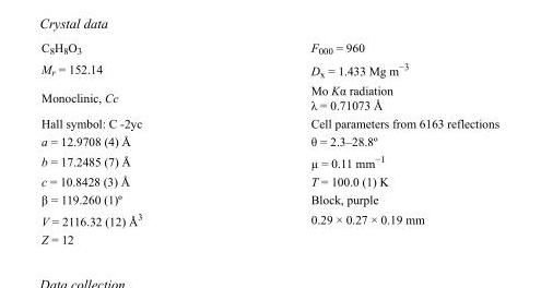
<table><tbody><tr><td>C<sub>8</sub>H<sub>8</sub>O<sub>3</sub></td><td>F<sub>000</sub> = 960</td></tr><tr><td>M<sub>r</sub> = 152.14</td><td>D<sub>x</sub> = 1.433 Mg m<sup>−3</sup></td></tr><tr><td>Monoclinic, Cc</td><td>Mo Kα radiation λ = 0.71073 Å</td></tr><tr><td>Hall symbol: C -2yc</td><td>Cell parameters from 6163 reflections</td></tr><tr><td>a = 12.9708 (4) Å</td><td>θ = 2.3–28.8º</td></tr><tr><td>b = 17.2485 (7) Å</td><td>µ = 0.11 mm<sup>−1</sup></td></tr><tr><td>c = 10.8428 (3) Å</td><td>T = 100.0 (1) K</td></tr><tr><td>β = 119.260 (1)º</td><td>Block, purple</td></tr><tr><td>V = 2116.32 (12) Å<sup>3</sup></td><td>0.29 × 0.27 × 0.19 mm</td></tr><tr><td>Z = 12</td><td></td></tr></tbody></table>